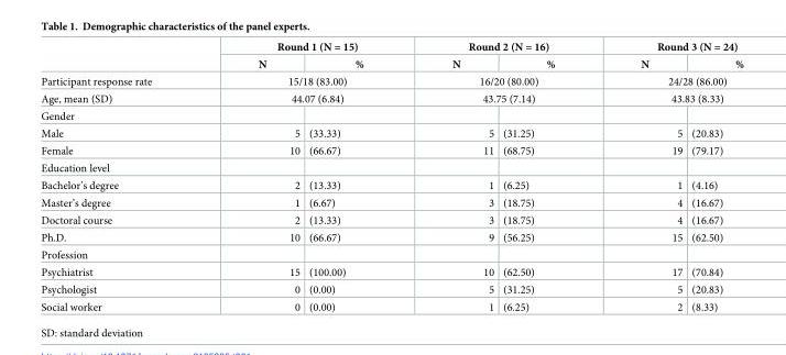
<table><thead><tr><td rowspan="2"></td><td colspan="2">Round 1 (N = 15)</td><td colspan="2">Round 2 (N = 16)</td><td colspan="2">Round 3 (N = 24)</td></tr><tr><td>N</td><td>%</td><td>N</td><td>%</td><td>N</td><td>%</td></tr></thead><tbody><tr><td>Participant response rate</td><td colspan="2">15/18 (83.00)</td><td colspan="2">16/20 (80.00)</td><td colspan="2">24/28 (86.00)</td></tr><tr><td>Age, mean (SD)</td><td colspan="2">44.07 (6.84)</td><td colspan="2">43.75 (7.14)</td><td colspan="2">43.83 (8.33)</td></tr><tr><td colspan="7">Gender</td></tr><tr><td>Male</td><td>5</td><td>(33.33)</td><td>5</td><td>(31.25)</td><td>5</td><td>(20.83)</td></tr><tr><td>Female</td><td>10</td><td>(66.67)</td><td>11</td><td>(68.75)</td><td>19</td><td>(79.17)</td></tr><tr><td colspan="7">Education level</td></tr><tr><td>Bachelor’s degree</td><td>2</td><td>(13.33)</td><td>1</td><td>(6.25)</td><td>1</td><td>(4.16)</td></tr><tr><td>Master’s degree</td><td>1</td><td>(6.67)</td><td>3</td><td>(18.75)</td><td>4</td><td>(16.67)</td></tr><tr><td>Doctoral course</td><td>2</td><td>(13.33)</td><td>3</td><td>(18.75)</td><td>4</td><td>(16.67)</td></tr><tr><td>Ph.D.</td><td>10</td><td>(66.67)</td><td>9</td><td>(56.25)</td><td>15</td><td>(62.50)</td></tr><tr><td colspan="7">Profession</td></tr><tr><td>Psychiatrist</td><td>15</td><td>(100.00)</td><td>10</td><td>(62.50)</td><td>17</td><td>(70.84)</td></tr><tr><td>Psychologist</td><td>0</td><td>(0.00)</td><td>5</td><td>(31.25)</td><td>5</td><td>(20.83)</td></tr><tr><td>Social worker</td><td>0</td><td>(0.00)</td><td>1</td><td>(6.25)</td><td>2</td><td>(8.33)</td></tr></tbody></table>